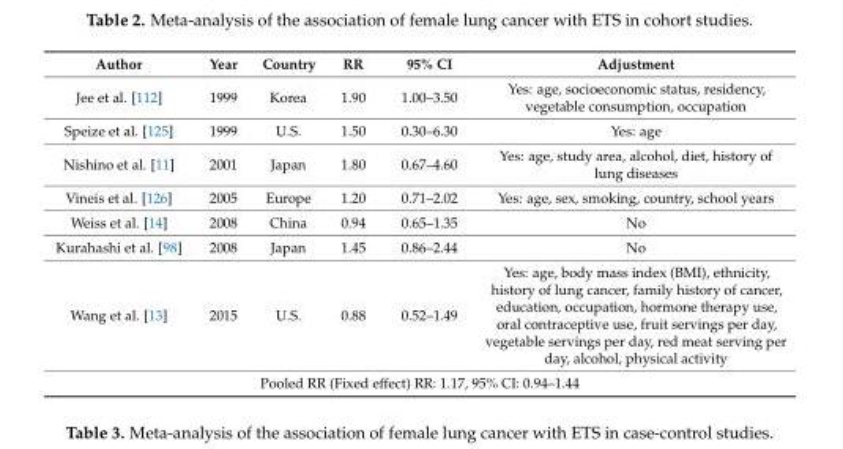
<table><thead><tr><td>Author</td><td>Year</td><td>Country</td><td>RR</td><td>95% CI</td><td>Adjustment</td></tr></thead><tbody><tr><td>Jee et al. [112]</td><td>1999</td><td>Korea</td><td>1.90</td><td>1.00–3.50</td><td>Yes: age, socioeconomic status, residency, vegetable consumption, occupation</td></tr><tr><td>Speize et al. [125]</td><td>1999</td><td>U.S.</td><td>1.50</td><td>0.30–6.30</td><td>Yes: age</td></tr><tr><td>Nishino et al. [11]</td><td>2001</td><td>Japan</td><td>1.80</td><td>0.67–4.60</td><td>Yes: age, study area, alcohol, diet, history of lung diseases</td></tr><tr><td>Vineis et al. [126]</td><td>2005</td><td>Europe</td><td>1.20</td><td>0.71–2.02</td><td>Yes: age, sex, smoking, country, school years</td></tr><tr><td>Weiss et al. [14]</td><td>2008</td><td>China</td><td>0.94</td><td>0.65–1.35</td><td>No</td></tr><tr><td>Kurahashi et al. [98]</td><td>2008</td><td>Japan</td><td>1.45</td><td>0.86–2.44</td><td>No</td></tr><tr><td>Wang et al. [13]</td><td>2015</td><td>U.S.</td><td>0.88</td><td>0.52–1.49</td><td>Yes: age, body mass index (BMI), ethnicity, history of lung cancer, family history of cancer, education, occupation, hormone therapy use, oral contraceptive use, fruit servings per day, vegetable servings per day, red meat serving per day, alcohol, physical activity</td></tr><tr><td colspan="6">Pooled RR (Fixed effect) RR: 1.17, 95% CI: 0.94–1.44</td></tr></tbody></table>